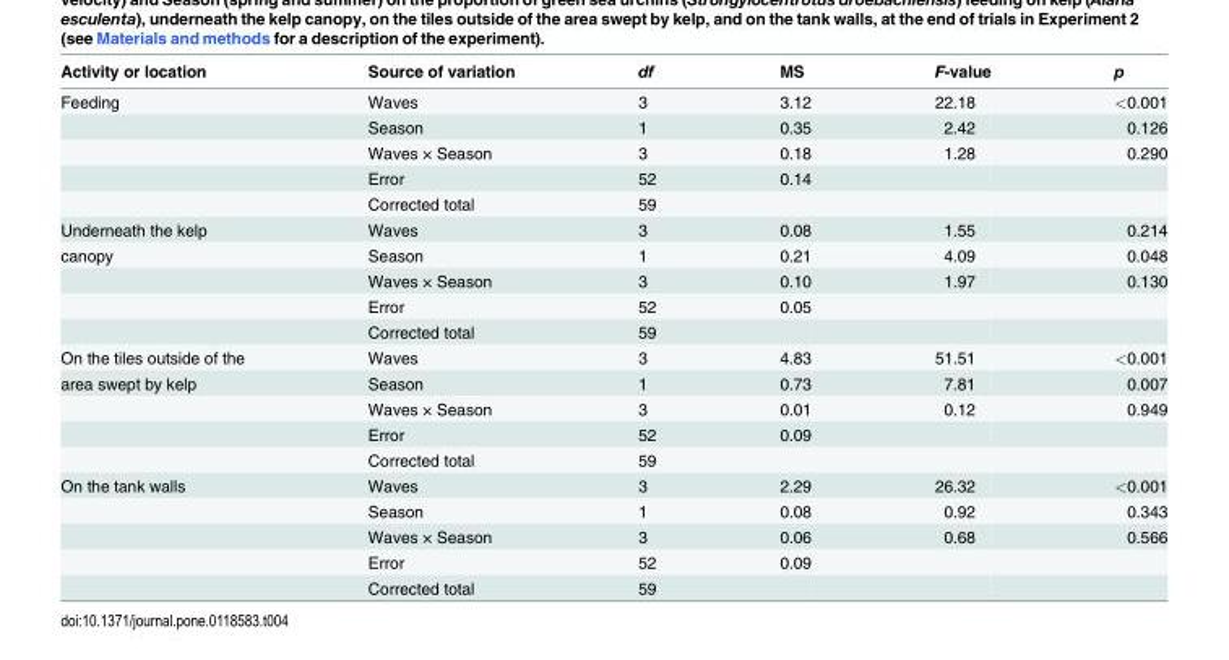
<table><thead><tr><td>Activity or location</td><td>Source of variation</td><td>df</td><td>MS</td><td>F-value</td><td>p</td></tr></thead><tbody><tr><td rowspan="5">Feeding</td><td>Waves</td><td>3</td><td>3.12</td><td>22.18</td><td>&lt;0.001</td></tr><tr><td>Season</td><td>1</td><td>0.35</td><td>2.42</td><td>0.126</td></tr><tr><td>Waves × Season</td><td>3</td><td>0.18</td><td>1.28</td><td>0.290</td></tr><tr><td>Error</td><td>52</td><td>0.14</td><td></td><td></td></tr><tr><td>Corrected total</td><td>59</td><td></td><td></td><td></td></tr><tr><td>Underneath the kelp</td><td>Waves</td><td>3</td><td>0.08</td><td>1.55</td><td>0.214</td></tr><tr><td rowspan="4">canopy</td><td>Season</td><td>1</td><td>0.21</td><td>4.09</td><td>0.048</td></tr><tr><td>Waves × Season</td><td>3</td><td>0.10</td><td>1.97</td><td>0.130</td></tr><tr><td>Error</td><td>52</td><td>0.05</td><td></td><td></td></tr><tr><td>Corrected total</td><td>59</td><td></td><td></td><td></td></tr><tr><td>On the tiles outside of the</td><td>Waves</td><td>3</td><td>4.83</td><td>51.51</td><td>&lt;0.001</td></tr><tr><td rowspan="4">area swept by kelp</td><td>Season</td><td>1</td><td>0.73</td><td>7.81</td><td>0.007</td></tr><tr><td>Waves × Season</td><td>3</td><td>0.01</td><td>0.12</td><td>0.949</td></tr><tr><td>Error</td><td>52</td><td>0.09</td><td></td><td></td></tr><tr><td>Corrected total</td><td>59</td><td></td><td></td><td></td></tr><tr><td rowspan="5">On the tank walls</td><td>Waves</td><td>3</td><td>2.29</td><td>26.32</td><td>&lt;0.001</td></tr><tr><td>Season</td><td>1</td><td>0.08</td><td>0.92</td><td>0.343</td></tr><tr><td>Waves × Season</td><td>3</td><td>0.06</td><td>0.68</td><td>0.566</td></tr><tr><td>Error</td><td>52</td><td>0.09</td><td></td><td></td></tr><tr><td>Corrected total</td><td>59</td><td></td><td></td><td></td></tr></tbody></table>